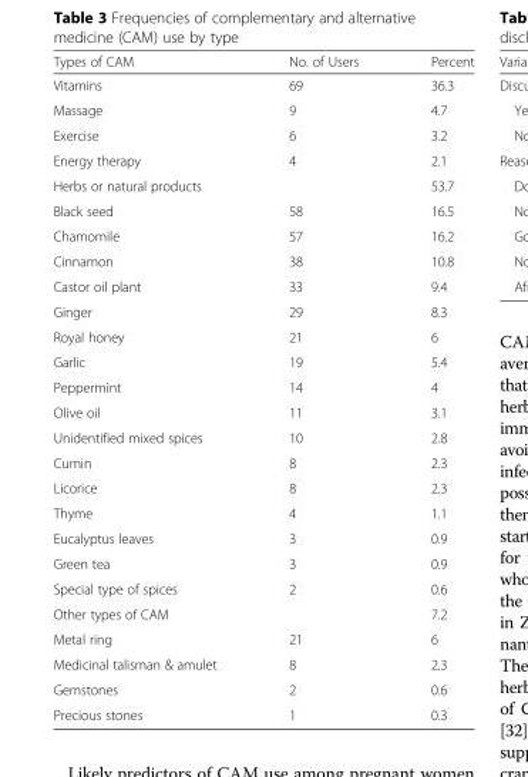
<table><thead><tr><td>Types of CAM</td><td>No. of Users</td><td>Percent</td></tr></thead><tbody><tr><td>Vitamins</td><td>69</td><td>36.3</td></tr><tr><td>Massage</td><td>9</td><td>4.7</td></tr><tr><td>Exercise</td><td>6</td><td>3.2</td></tr><tr><td>Energy therapy</td><td>4</td><td>2.1</td></tr><tr><td colspan="2">Herbs or natural products</td><td>53.7</td></tr><tr><td>Black seed</td><td>58</td><td>16.5</td></tr><tr><td>Chamomile</td><td>57</td><td>16.2</td></tr><tr><td>Cinnamon</td><td>38</td><td>10.8</td></tr><tr><td>Castor oil plant</td><td>33</td><td>9.4</td></tr><tr><td>Ginger</td><td>29</td><td>8.3</td></tr><tr><td>Royal honey</td><td>21</td><td>6</td></tr><tr><td>Garlic</td><td>19</td><td>5.4</td></tr><tr><td>Peppermint</td><td>14</td><td>4</td></tr><tr><td>Olive oil</td><td>11</td><td>3.1</td></tr><tr><td>Unidentified mixed spices</td><td>10</td><td>2.8</td></tr><tr><td>Cumin</td><td>8</td><td>2.3</td></tr><tr><td>Licorice</td><td>8</td><td>2.3</td></tr><tr><td>Thyme</td><td>4</td><td>1.1</td></tr><tr><td>Eucalyptus leaves</td><td>3</td><td>0.9</td></tr><tr><td>Green tea</td><td>3</td><td>0.9</td></tr><tr><td>Special type of spices</td><td>2</td><td>0.6</td></tr><tr><td colspan="2">Other types of CAM</td><td>7.2</td></tr><tr><td>Metal ring</td><td>21</td><td>6</td></tr><tr><td>Medicinal talisman &amp; amulet</td><td>8</td><td>2.3</td></tr><tr><td>Gemstones</td><td>2</td><td>0.6</td></tr><tr><td>Precious stones</td><td>1</td><td>0.3</td></tr></tbody></table>